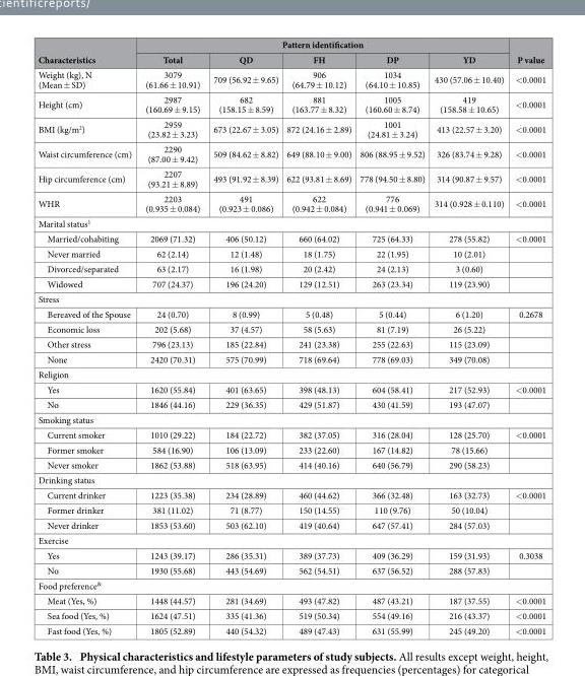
<table><thead><tr><td rowspan="2">Characteristics</td><td colspan="5">Pattern identification</td><td rowspan="2">P value</td></tr><tr><td>Total</td><td>QD</td><td>FH</td><td>DP</td><td>YD</td></tr></thead><tbody><tr><td>Weight (kg), N (Mean ± SD)</td><td>3079 (61.66 ± 10.91)</td><td>709 (56.92 ± 9.65)</td><td>906 (64.79 ± 10.12)</td><td>1034 (64.10 ± 10.85)</td><td>430 (57.06 ± 10.40)</td><td>&lt; 0.0001</td></tr><tr><td>Height (cm)</td><td>2987 (160.69 ± 9.15)</td><td>682 (158.15 ± 8.59)</td><td>881 (163.77 ± 8.32)</td><td>1005 (160.60 ± 8.74)</td><td>419 (158.58 ± 10.65)</td><td>&lt; 0.0001</td></tr><tr><td>BMI (kg/m<sup>2</sup>)</td><td>2959 (23.82 ± 3.23)</td><td>673 (22.67 ± 3.05)</td><td>872 (24.16 ± 2.89)</td><td>1001 (24.81 ± 3.24)</td><td>413 (22.57 ± 3.20)</td><td>&lt; 0.0001</td></tr><tr><td>Waist circumference (cm)</td><td>2290 (87.00 ± 9.42)</td><td>509 (84.62 ± 8.82)</td><td>649 (88.10 ± 9.00)</td><td>806 (88.95 ± 9.52)</td><td>326 (83.74 ± 9.28)</td><td>&lt; 0.0001</td></tr><tr><td>Hip circumference (cm)</td><td>2207 (93.21 ± 8.89)</td><td>493 (91.92 ± 8.39)</td><td>622 (93.81 ± 8.69)</td><td>778 (94.50 ± 8.80)</td><td>314 (90.87 ± 9.57)</td><td>&lt; 0.0001</td></tr><tr><td>WHR</td><td>2203 (0.935 ± 0.084)</td><td>491 (0.923 ± 0.086)</td><td>622 (0.942 ± 0.084)</td><td>776 (0.941 ± 0.069)</td><td>314 (0.928 ± 0.110)</td><td>&lt; 0.0001</td></tr><tr><td colspan="7">Marital status<sup>1</sup></td></tr><tr><td>Married/cohabiting</td><td>2069 (71.32)</td><td>406 (50.12)</td><td>660 (64.02)</td><td>725 (64.33)</td><td>278 (55.82)</td><td>&lt; 0.0001</td></tr><tr><td>Never married</td><td>62 (2.14)</td><td>12 (1.48)</td><td>18 (1.75)</td><td>22 (1.95)</td><td>10 (2.01)</td><td></td></tr><tr><td>Divorced/separated</td><td>63 (2.17)</td><td>16 (1.98)</td><td>20 (2.42)</td><td>24 (2.13)</td><td>3 (0.60)</td><td></td></tr><tr><td>Widowed</td><td>707 (24.37)</td><td>196 (24.20)</td><td>129 (12.51)</td><td>263 (23.34)</td><td>119 (23.90)</td><td></td></tr><tr><td colspan="7">Stress</td></tr><tr><td>Bereaved of the Spouse</td><td>24 (0.70)</td><td>8 (0.99)</td><td>5 (0.48)</td><td>5 (0.44)</td><td>6 (1.20)</td><td>0.2678</td></tr><tr><td>Economic loss</td><td>202 (5.68)</td><td>37 (4.57)</td><td>58 (5.63)</td><td>81 (7.19)</td><td>26 (5.22)</td><td></td></tr><tr><td>Other stress</td><td>796 (23.13)</td><td>185 (22.84)</td><td>241 (23.38)</td><td>255 (22.63)</td><td>115 (23.09)</td><td></td></tr><tr><td>None</td><td>2420 (70.31)</td><td>575 (70.99)</td><td>718 (69.64)</td><td>778 (69.03)</td><td>349 (70.08)</td><td></td></tr><tr><td colspan="7">Religion</td></tr><tr><td>Yes</td><td>1620 (55.84)</td><td>401 (63.65)</td><td>398 (48.13)</td><td>604 (58.41)</td><td>217 (52.93)</td><td>&lt; 0.0001</td></tr><tr><td>No</td><td>1846 (44.16)</td><td>229 (36.35)</td><td>429 (51.87)</td><td>430 (41.59)</td><td>193 (47.07)</td><td></td></tr><tr><td colspan="7">Smoking status</td></tr><tr><td>Current smoker</td><td>1010 (29.22)</td><td>184 (22.72)</td><td>382 (37.05)</td><td>316 (28.04)</td><td>128 (25.70)</td><td>&lt; 0.0001</td></tr><tr><td>Former smoker</td><td>584 (16.90)</td><td>106 (13.09)</td><td>233 (22.60)</td><td>167 (14.82)</td><td>78 (15.66)</td><td></td></tr><tr><td>Never smoker</td><td>1862 (53.88)</td><td>518 (63.95)</td><td>414 (40.16)</td><td>640 (56.79)</td><td>290 (58.23)</td><td></td></tr><tr><td colspan="7">Drinking status</td></tr><tr><td>Current drinker</td><td>1223 (35.38)</td><td>234 (28.89)</td><td>460 (44.62)</td><td>366 (32.48)</td><td>163 (32.73)</td><td>&lt; 0.0001</td></tr><tr><td>Former drinker</td><td>381 (11.02)</td><td>71 (8.77)</td><td>150 (14.55)</td><td>110 (9.76)</td><td>50 (10.04)</td><td></td></tr><tr><td>Never drinker</td><td>1853 (53.60)</td><td>503 (62.10)</td><td>419 (40.64)</td><td>647 (57.41)</td><td>284 (57.03)</td><td></td></tr><tr><td colspan="7">Exercise</td></tr><tr><td>Yes</td><td>1243 (39.17)</td><td>286 (35.31)</td><td>389 (37.73)</td><td>409 (36.29)</td><td>159 (31.93)</td><td>0.3038</td></tr><tr><td>No</td><td>1930 (55.68)</td><td>443 (54.69)</td><td>562 (54.51)</td><td>637 (56.52)</td><td>288 (57.83)</td><td></td></tr><tr><td colspan="7">Food preference<sup>&amp;</sup></td></tr><tr><td>Meat (Yes, %)</td><td>1448 (44.57)</td><td>281 (34.69)</td><td>493 (47.82)</td><td>487 (43.21)</td><td>187 (37.55)</td><td>&lt; 0.0001</td></tr><tr><td>Sea food (Yes, %)</td><td>1624 (47.51)</td><td>335 (41.36)</td><td>519 (50.34)</td><td>554 (49.16)</td><td>216 (43.37)</td><td>&lt; 0.0001</td></tr><tr><td>Fast food (Yes, %)</td><td>1805 (52.89)</td><td>440 (54.32)</td><td>489 (47.43)</td><td>631 (55.99)</td><td>245 (49.20)</td><td>&lt; 0.0001</td></tr></tbody></table>